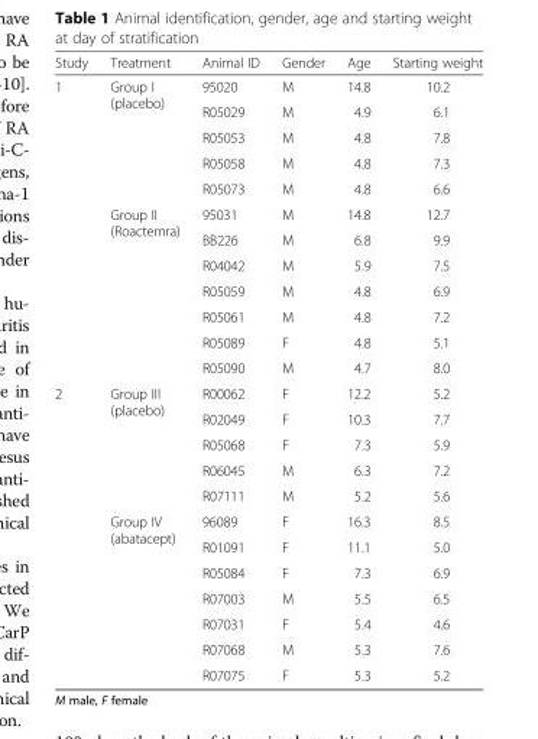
<table><thead><tr><td>Study</td><td>Treatment</td><td>Animal ID</td><td>Gender</td><td>Age</td><td>Starting weight</td></tr></thead><tbody><tr><td rowspan="12">1</td><td rowspan="5">Group I (placebo)</td><td>95020</td><td>M</td><td>14.8</td><td>10.2</td></tr><tr><td>R05029</td><td>M</td><td>4.9</td><td>6.1</td></tr><tr><td>R05053</td><td>M</td><td>4.8</td><td>7.8</td></tr><tr><td>R05058</td><td>M</td><td>4.8</td><td>7.3</td></tr><tr><td>R05073</td><td>M</td><td>4.8</td><td>6.6</td></tr><tr><td rowspan="7">Group II (Roactemra)</td><td>95031</td><td>M</td><td>14.8</td><td>12.7</td></tr><tr><td>BB226</td><td>M</td><td>6.8</td><td>9.9</td></tr><tr><td>R04042</td><td>M</td><td>5.9</td><td>7.5</td></tr><tr><td>R05059</td><td>M</td><td>4.8</td><td>6.9</td></tr><tr><td>R05061</td><td>M</td><td>4.8</td><td>7.2</td></tr><tr><td>R05089</td><td>F</td><td>4.8</td><td>5.1</td></tr><tr><td>R05090</td><td>M</td><td>4.7</td><td>8.0</td></tr><tr><td rowspan="12">2</td><td rowspan="5">Group III (placebo)</td><td>R00062</td><td>F</td><td>12.2</td><td>5.2</td></tr><tr><td>R02049</td><td>F</td><td>10.3</td><td>7.7</td></tr><tr><td>R05068</td><td>F</td><td>7.3</td><td>5.9</td></tr><tr><td>R06045</td><td>M</td><td>6.3</td><td>7.2</td></tr><tr><td>R07111</td><td>M</td><td>5.2</td><td>5.6</td></tr><tr><td rowspan="7">Group IV (abatacept)</td><td>96089</td><td>F</td><td>16.3</td><td>8.5</td></tr><tr><td>R01091</td><td>F</td><td>11.1</td><td>5.0</td></tr><tr><td>R05084</td><td>F</td><td>7.3</td><td>6.9</td></tr><tr><td>R07003</td><td>M</td><td>5.5</td><td>6.5</td></tr><tr><td>R07031</td><td>F</td><td>5.4</td><td>4.6</td></tr><tr><td>R07068</td><td>M</td><td>5.3</td><td>7.6</td></tr><tr><td>R07075</td><td>F</td><td>5.3</td><td>5.2</td></tr></tbody></table>